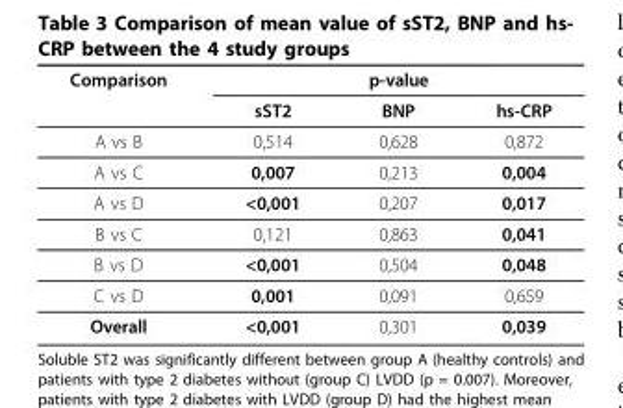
<table><thead><tr><td rowspan="2">Comparison</td><td colspan="3">p-value</td></tr><tr><td>sST2</td><td>BNP</td><td>hs-CRP</td></tr></thead><tbody><tr><td>A vs B</td><td>0,514</td><td>0,628</td><td>0,872</td></tr><tr><td>A vs C</td><td>0,007</td><td>0,213</td><td>0,004</td></tr><tr><td>A vs D</td><td>&lt;0,001</td><td>0,207</td><td>0,017</td></tr><tr><td>B vs C</td><td>0,121</td><td>0,863</td><td>0,041</td></tr><tr><td>B vs D</td><td>&lt;0,001</td><td>0,504</td><td>0,048</td></tr><tr><td>C vs D</td><td>0,001</td><td>0,091</td><td>0,659</td></tr><tr><td>Overall</td><td>&lt;0,001</td><td>0,301</td><td>0,039</td></tr></tbody></table>